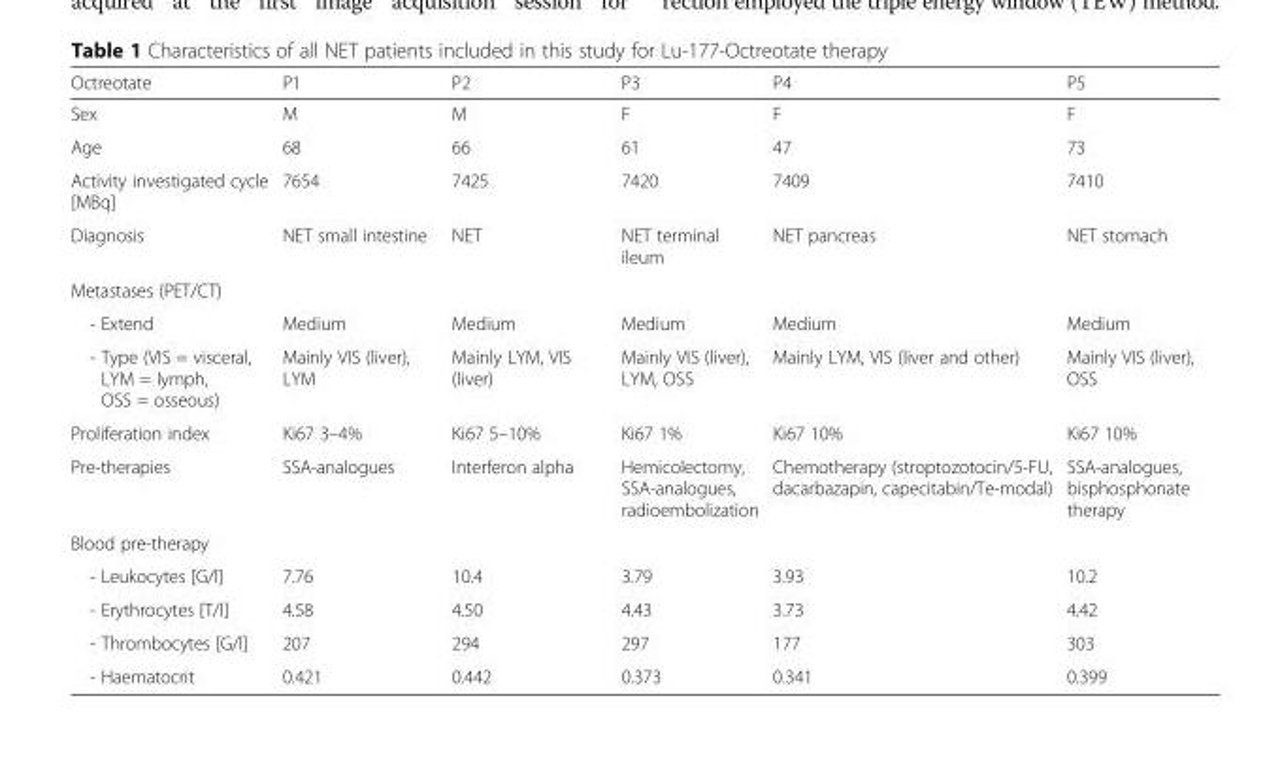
<table><thead><tr><td>Octreotate</td><td>P1</td><td>P2</td><td>P3</td><td>P4</td><td>P5</td></tr></thead><tbody><tr><td>Sex</td><td>M</td><td>M</td><td>F</td><td>F</td><td>F</td></tr><tr><td>Age</td><td>68</td><td>66</td><td>61</td><td>47</td><td>73</td></tr><tr><td>Activity investigated cycle [MBq]</td><td>7654</td><td>7425</td><td>7420</td><td>7409</td><td>7410</td></tr><tr><td>Diagnosis</td><td>NET small intestine</td><td>NET</td><td>NET terminal ileum</td><td>NET pancreas</td><td>NET stomach</td></tr><tr><td colspan="6">Metastases (PET/CT)</td></tr><tr><td>- Extend</td><td>Medium</td><td>Medium</td><td>Medium</td><td>Medium</td><td>Medium</td></tr><tr><td>- Type (VIS = visceral, LYM = lymph, OSS = osseous)</td><td>Mainly VIS (liver), LYM</td><td>Mainly LYM, VIS (liver)</td><td>Mainly VIS (liver), LYM, OSS</td><td>Mainly LYM, VIS (liver and other)</td><td>Mainly VIS (liver), OSS</td></tr><tr><td>Proliferation index</td><td>Ki67 3–4%</td><td>Ki67 5–10%</td><td>Ki67 1%</td><td>Ki67 10%</td><td>Ki67 10%</td></tr><tr><td>Pre-therapies</td><td>SSA-analogues</td><td>Interferon alpha</td><td>Hemicolectomy, SSA-analogues, radioembolization</td><td>Chemotherapy (stroptozotocin/5-FU, dacarbazapin, capecitabin/Te-modal)</td><td>SSA-analogues, bisphosphonate therapy</td></tr><tr><td colspan="6">Blood pre-therapy</td></tr><tr><td>- Leukocytes [G/l]</td><td>7.76</td><td>10.4</td><td>3.79</td><td>3.93</td><td>10.2</td></tr><tr><td>- Erythrocytes [T/l]</td><td>4.58</td><td>4.50</td><td>4.43</td><td>3.73</td><td>4.42</td></tr><tr><td>- Thrombocytes [G/l]</td><td>207</td><td>294</td><td>297</td><td>177</td><td>303</td></tr><tr><td>- Haematocrit</td><td>0.421</td><td>0.442</td><td>0.373</td><td>0.341</td><td>0.399</td></tr></tbody></table>